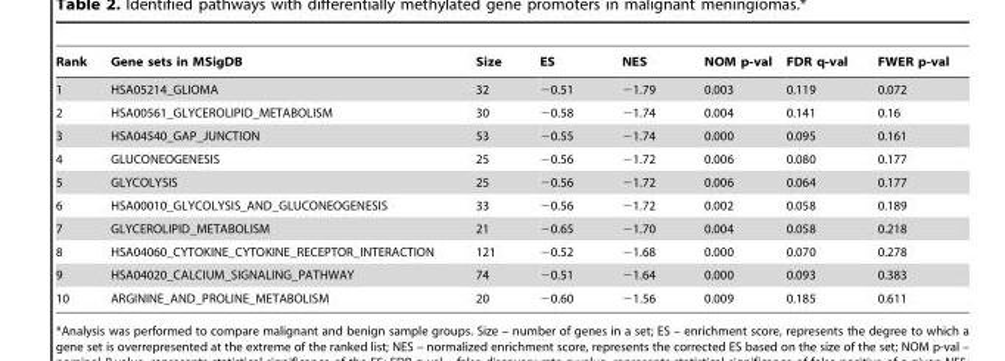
<table><thead><tr><td>Rank</td><td>Gene sets in MSigDB</td><td>Size</td><td>ES</td><td>NES</td><td>NOM p-val</td><td>FDR q-val</td><td>FWER p-val</td></tr></thead><tbody><tr><td>1</td><td>HSA05214_GLIOMA</td><td>32</td><td>−0.51</td><td>−1.79</td><td>0.003</td><td>0.119</td><td>0.072</td></tr><tr><td>2</td><td>HSA00561_GLYCEROLIPID_METABOLISM</td><td>30</td><td>−0.58</td><td>−1.74</td><td>0.004</td><td>0.141</td><td>0.16</td></tr><tr><td>3</td><td>HSA04540_GAP_JUNCTION</td><td>53</td><td>−0.55</td><td>−1.74</td><td>0.000</td><td>0.095</td><td>0.161</td></tr><tr><td>4</td><td>GLUCONEOGENESIS</td><td>25</td><td>−0.56</td><td>−1.72</td><td>0.006</td><td>0.080</td><td>0.177</td></tr><tr><td>5</td><td>GLYCOLYSIS</td><td>25</td><td>−0.56</td><td>−1.72</td><td>0.006</td><td>0.064</td><td>0.177</td></tr><tr><td>6</td><td>HSA00010_GLYCOLYSIS_AND_GLUCONEOGENESIS</td><td>33</td><td>−0.56</td><td>−1.72</td><td>0.002</td><td>0.058</td><td>0.189</td></tr><tr><td>7</td><td>GLYCEROLIPID_METABOLISM</td><td>21</td><td>−0.65</td><td>−1.70</td><td>0.004</td><td>0.058</td><td>0.218</td></tr><tr><td>8</td><td>HSA04060_CYTOKINE_CYTOKINE_RECEPTOR_INTERACTION</td><td>121</td><td>−0.52</td><td>−1.68</td><td>0.000</td><td>0.070</td><td>0.278</td></tr><tr><td>9</td><td>HSA04020_CALCIUM_SIGNALING_PATHWAY</td><td>74</td><td>−0.51</td><td>−1.64</td><td>0.000</td><td>0.093</td><td>0.383</td></tr><tr><td>10</td><td>ARGININE_AND_PROLINE_METABOLISM</td><td>20</td><td>−0.60</td><td>−1.56</td><td>0.009</td><td>0.185</td><td>0.611</td></tr></tbody></table>